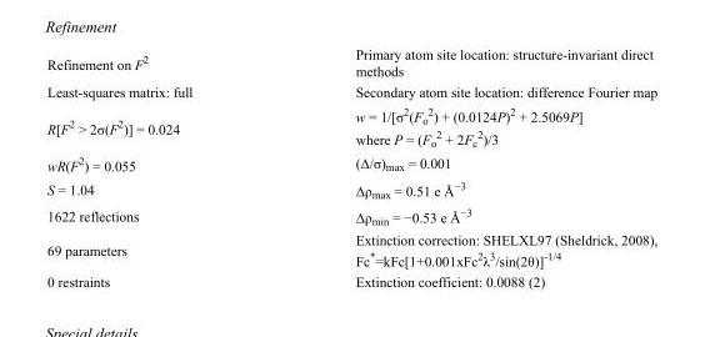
<table><tbody><tr><td>Refinement on F<sup>2</sup></td><td>Primary atom site location: structure-invariant direct methods</td></tr><tr><td>Least-squares matrix: full</td><td>Secondary atom site location: difference Fourier map</td></tr><tr><td>R[F<sup>2</sup> &gt; 2σ(F<sup>2</sup>)] = 0.024</td><td>w = 1/[σ<sup>2</sup>(F<sub>o</sub> <sup>2</sup>) + (0.0124P)<sup>2</sup> + 2.5069P] where P = (F<sub>o</sub> <sup>2</sup> + 2F<sub>c</sub> <sup>2</sup>)/3</td></tr><tr><td>wR(F<sup>2</sup>) = 0.055</td><td>(Δ/σ)<sub>max</sub> = 0.001</td></tr><tr><td>S = 1.04</td><td>Δρ<sub>max</sub> = 0.51 e Å<sup>−3</sup></td></tr><tr><td>1622 reflections</td><td>Δρ<sub>min</sub> = −0.53 e Å<sup>−3</sup></td></tr><tr><td>69 parameters</td><td>Extinction correction: SHELXL97 (Sheldrick, 2008), Fc*=kFc[1+0.001xFc<sup>2</sup>λ<sup>3</sup>/sin(2θ)]<sup>-1/4</sup></td></tr><tr><td>0 restraints</td><td>Extinction coefficient: 0.0088 (2)</td></tr></tbody></table>